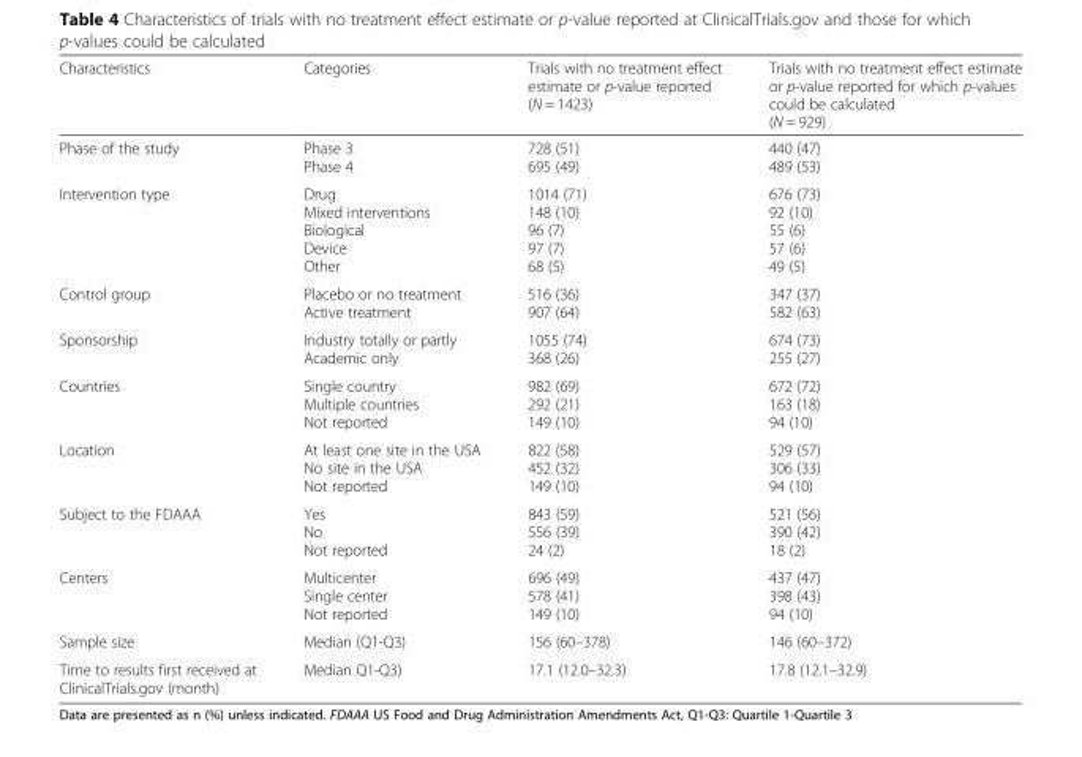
<table><thead><tr><td>Characteristics</td><td>Categories</td><td>Trials with no treatment effect estimate or p-value reported (N = 1423)</td><td>Trials with no treatment effect estimate or p-value reported for which p-values could be calculated (N = 929)</td></tr></thead><tbody><tr><td>Phase of the study</td><td>Phase 3 Phase 4</td><td>728 (51) 695 (49)</td><td>440 (47) 489 (53)</td></tr><tr><td>Intervention type</td><td>Drug Mixed interventions Biological Device Other</td><td>1014 (71) 148 (10) 96 (7) 97 (7) 68 (5)</td><td>676 (73) 92 (10) 55 (6) 57 (6) 49 (5)</td></tr><tr><td>Control group</td><td>Placebo or no treatment Active treatment</td><td>516 (36) 907 (64)</td><td>347 (37) 582 (63)</td></tr><tr><td>Sponsorship</td><td>Industry totally or partly Academic only</td><td>1055 (74) 368 (26)</td><td>674 (73) 255 (27)</td></tr><tr><td>Countries</td><td>Single country Multiple countries Not reported</td><td>982 (69) 292 (21) 149 (10)</td><td>672 (72) 163 (18) 94 (10)</td></tr><tr><td>Location</td><td>At least one site in the USA No site in the USA Not reported</td><td>822 (58) 452 (32) 149 (10)</td><td>529 (57) 306 (33) 94 (10)</td></tr><tr><td>Subject to the FDAAA</td><td>Yes No Not reported</td><td>843 (59) 556 (39) 24 (2)</td><td>521 (56) 390 (42) 18 (2)</td></tr><tr><td>Centers</td><td>Multicenter Single center Not reported</td><td>696 (49) 578 (41) 149 (10)</td><td>437 (47) 398 (43) 94 (10)</td></tr><tr><td>Sample size</td><td>Median (Q1-Q3)</td><td>156 (60–378)</td><td>146 (60–372)</td></tr><tr><td>Time to results first received at ClinicalTrials.gov (month)</td><td>Median Q1-Q3)</td><td>17.1 (12.0–32.3)</td><td>17.8 (12.1–32.9)</td></tr></tbody></table>